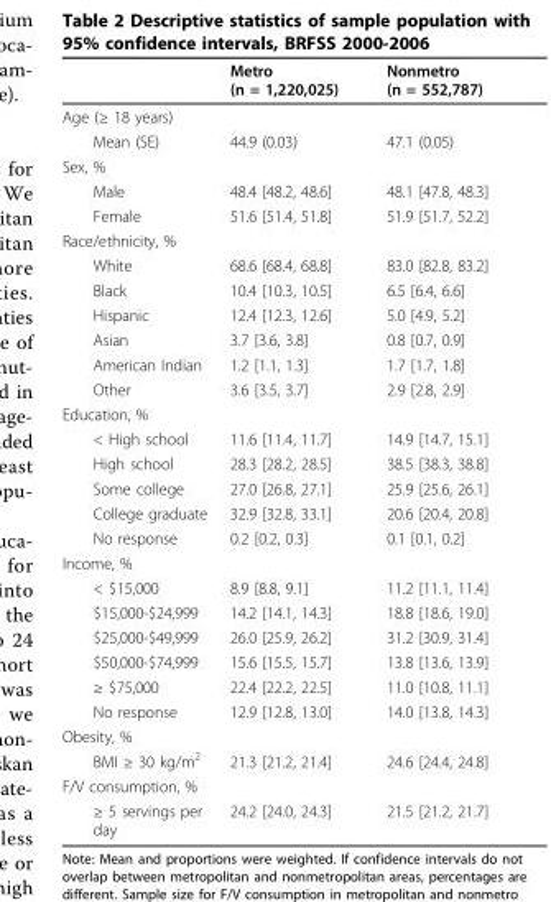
<table><thead><tr><td></td><td>Metro (n = 1,220,025)</td><td>Nonmetro (n = 552,787)</td></tr></thead><tbody><tr><td colspan="3">Age (≥ 18 years)</td></tr><tr><td>Mean (SE)</td><td>44.9 (0.03)</td><td>47.1 (0.05)</td></tr><tr><td colspan="3">Sex, %</td></tr><tr><td>Male</td><td>48.4 [48.2, 48.6]</td><td>48.1 [47.8, 48.3]</td></tr><tr><td>Female</td><td>51.6 [51.4, 51.8]</td><td>51.9 [51.7, 52.2]</td></tr><tr><td colspan="3">Race/ethnicity, %</td></tr><tr><td>White</td><td>68.6 [68.4, 68.8]</td><td>83.0 [82.8, 83.2]</td></tr><tr><td>Black</td><td>10.4 [10.3, 10.5]</td><td>6.5 [6.4, 6.6]</td></tr><tr><td>Hispanic</td><td>12.4 [12.3, 12.6]</td><td>5.0 [4.9, 5.2]</td></tr><tr><td>Asian</td><td>3.7 [3.6, 3.8]</td><td>0.8 [0.7, 0.9]</td></tr><tr><td>American Indian</td><td>1.2 [1.1, 1.3]</td><td>1.7 [1.7, 1.8]</td></tr><tr><td>Other</td><td>3.6 [3.5, 3.7]</td><td>2.9 [2.8, 2.9]</td></tr><tr><td colspan="3">Education, %</td></tr><tr><td>&lt; High school</td><td>11.6 [11.4, 11.7]</td><td>14.9 [14.7, 15.1]</td></tr><tr><td>High school</td><td>28.3 [28.2, 28.5]</td><td>38.5 [38.3, 38.8]</td></tr><tr><td>Some college</td><td>27.0 [26.8, 27.1]</td><td>25.9 [25.6, 26.1]</td></tr><tr><td>College graduate</td><td>32.9 [32.8, 33.1]</td><td>20.6 [20.4, 20.8]</td></tr><tr><td>No response</td><td>0.2 [0.2, 0.3]</td><td>0.1 [0.1, 0.2]</td></tr><tr><td colspan="3">Income, %</td></tr><tr><td>&lt; $15,000</td><td>8.9 [8.8, 9.1]</td><td>11.2 [11.1, 11.4]</td></tr><tr><td>$15,000-$24,999</td><td>14.2 [14.1, 14.3]</td><td>18.8 [18.6, 19.0]</td></tr><tr><td>$25,000-$49,999</td><td>26.0 [25.9, 26.2]</td><td>31.2 [30.9, 31.4]</td></tr><tr><td>$50,000-$74,999</td><td>15.6 [15.5, 15.7]</td><td>13.8 [13.6, 13.9]</td></tr><tr><td>≥ $75,000</td><td>22.4 [22.2, 22.5]</td><td>11.0 [10.8, 11.1]</td></tr><tr><td>No response</td><td>12.9 [12.8, 13.0]</td><td>14.0 [13.8, 14.3]</td></tr><tr><td colspan="3">Obesity, %</td></tr><tr><td>BMI ≥ 30 kg/m<sup>2</sup></td><td>21.3 [21.2, 21.4]</td><td>24.6 [24.4, 24.8]</td></tr><tr><td colspan="3">F/V consumption, %</td></tr><tr><td>≥ 5 servings per day</td><td>24.2 [24.0, 24.3]</td><td>21.5 [21.2, 21.7]</td></tr></tbody></table>